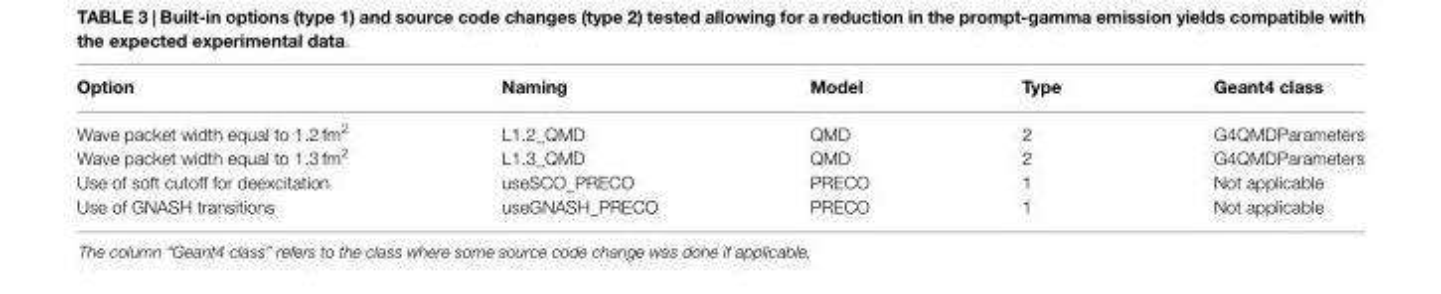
<table><thead><tr><td>Option</td><td>Naming</td><td>Model</td><td>Type</td><td>Geant4 class</td></tr></thead><tbody><tr><td>Wave packet width equal to 1.2 fm<sup>2</sup></td><td>L1.2_QMD</td><td>QMD</td><td>2</td><td>G4QMDParameters</td></tr><tr><td>Wave packet width equal to 1.3 fm<sup>2</sup></td><td>L1.3_QMD</td><td>QMD</td><td>2</td><td>G4QMDParameters</td></tr><tr><td>Use of soft cutoff for deexcitation</td><td>useSCO_PRECO</td><td>PRECO</td><td>1</td><td>Not applicable</td></tr><tr><td>Use of GNASH transitions</td><td>useGNASH_PRECO</td><td>PRECO</td><td>1</td><td>Not applicable</td></tr></tbody></table>